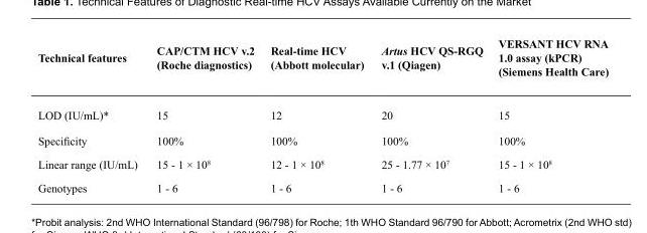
<table><thead><tr><td>Technical features</td><td>CAP/CTM HCV v.2 (Roche diagnostics)</td><td>Real-time HCV (Abbott molecular)</td><td>Artus HCV QS-RGQ v.1 (Qiagen)</td><td>VERSANT HCV RNA 1.0 assay (kPCR) (Siemens Health Care)</td></tr></thead><tbody><tr><td>LOD (IU/mL)*</td><td>15</td><td>12</td><td>20</td><td>15</td></tr><tr><td>Specificity</td><td>100%</td><td>100%</td><td>100%</td><td>100%</td></tr><tr><td>Linear range (IU/mL)</td><td>15 - 1 × 10<sup>8</sup></td><td>12 - 1 × 10<sup>8</sup></td><td>25 - 1.77 × 10<sup>7</sup></td><td>15 - 1 × 10<sup>8</sup></td></tr><tr><td>Genotypes</td><td>1 - 6</td><td>1 - 6</td><td>1 - 6</td><td>1 - 6</td></tr></tbody></table>